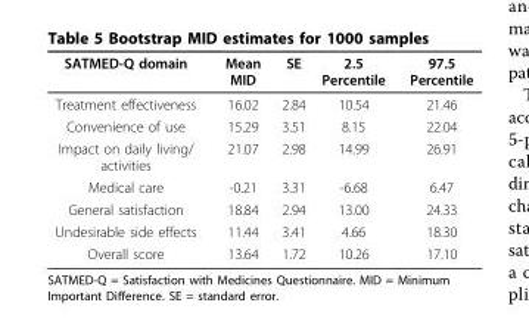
<table><thead><tr><td>SATMED-Q domain</td><td>Mean MID</td><td>SE</td><td>2.5 Percentile</td><td>97.5 Percentile</td></tr></thead><tbody><tr><td>Treatment effectiveness</td><td>16.02</td><td>2.84</td><td>10.54</td><td>21.46</td></tr><tr><td>Convenience of use</td><td>15.29</td><td>3.51</td><td>8.15</td><td>22.04</td></tr><tr><td>Impact on daily living/ activities</td><td>21.07</td><td>2.98</td><td>14.99</td><td>26.91</td></tr><tr><td>Medical care</td><td>-0.21</td><td>3.31</td><td>-6.68</td><td>6.47</td></tr><tr><td>General satisfaction</td><td>18.84</td><td>2.94</td><td>13.00</td><td>24.33</td></tr><tr><td>Undesirable side effects</td><td>11.44</td><td>3.41</td><td>4.66</td><td>18.30</td></tr><tr><td>Overall score</td><td>13.64</td><td>1.72</td><td>10.26</td><td>17.10</td></tr></tbody></table>